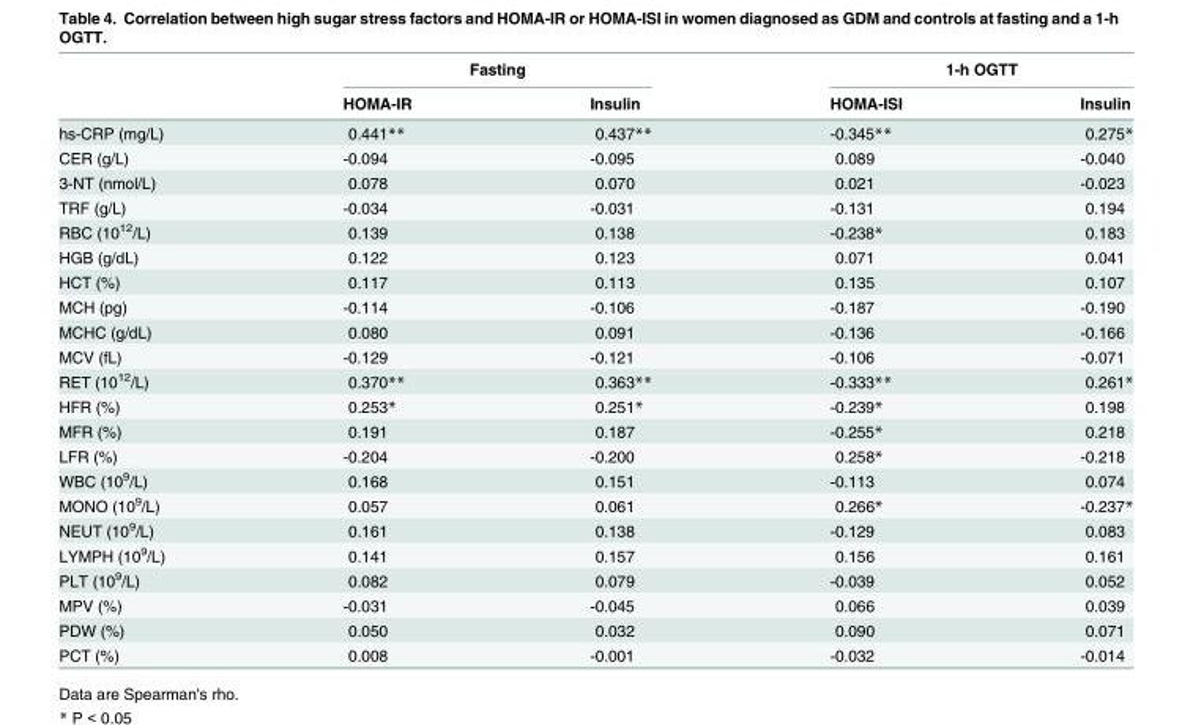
<table><thead><tr><td rowspan="2"></td><td colspan="2">Fasting</td><td colspan="2">1-h OGTT</td></tr><tr><td>HOMA-IR</td><td>Insulin</td><td>HOMA-ISI</td><td>Insulin</td></tr></thead><tbody><tr><td>hs-CRP (mg/L)</td><td>0.441**</td><td>0.437**</td><td>-0.345**</td><td>0.275*</td></tr><tr><td>CER (g/L)</td><td>-0.094</td><td>-0.095</td><td>0.089</td><td>-0.040</td></tr><tr><td>3-NT (nmol/L)</td><td>0.078</td><td>0.070</td><td>0.021</td><td>-0.023</td></tr><tr><td>TRF (g/L)</td><td>-0.034</td><td>-0.031</td><td>-0.131</td><td>0.194</td></tr><tr><td>RBC (10<sup>12</sup>/L)</td><td>0.139</td><td>0.138</td><td>-0.238*</td><td>0.183</td></tr><tr><td>HGB (g/dL)</td><td>0.122</td><td>0.123</td><td>0.071</td><td>0.041</td></tr><tr><td>HCT (%)</td><td>0.117</td><td>0.113</td><td>0.135</td><td>0.107</td></tr><tr><td>MCH (pg)</td><td>-0.114</td><td>-0.106</td><td>-0.187</td><td>-0.190</td></tr><tr><td>MCHC (g/dL)</td><td>0.080</td><td>0.091</td><td>-0.136</td><td>-0.166</td></tr><tr><td>MCV (fL)</td><td>-0.129</td><td>-0.121</td><td>-0.106</td><td>-0.071</td></tr><tr><td>RET (10<sup>12</sup>/L)</td><td>0.370**</td><td>0.363**</td><td>-0.333**</td><td>0.261*</td></tr><tr><td>HFR (%)</td><td>0.253*</td><td>0.251*</td><td>-0.239*</td><td>0.198</td></tr><tr><td>MFR (%)</td><td>0.191</td><td>0.187</td><td>-0.255*</td><td>0.218</td></tr><tr><td>LFR (%)</td><td>-0.204</td><td>-0.200</td><td>0.258*</td><td>-0.218</td></tr><tr><td>WBC (10<sup>9</sup>/L)</td><td>0.168</td><td>0.151</td><td>-0.113</td><td>0.074</td></tr><tr><td>MONO (10<sup>9</sup>/L)</td><td>0.057</td><td>0.061</td><td>0.266*</td><td>-0.237*</td></tr><tr><td>NEUT (10<sup>9</sup>/L)</td><td>0.161</td><td>0.138</td><td>-0.129</td><td>0.083</td></tr><tr><td>LYMPH (10<sup>9</sup>/L)</td><td>0.141</td><td>0.157</td><td>0.156</td><td>0.161</td></tr><tr><td>PLT (10<sup>9</sup>/L)</td><td>0.082</td><td>0.079</td><td>-0.039</td><td>0.052</td></tr><tr><td>MPV (%)</td><td>-0.031</td><td>-0.045</td><td>0.066</td><td>0.039</td></tr><tr><td>PDW (%)</td><td>0.050</td><td>0.032</td><td>0.090</td><td>0.071</td></tr><tr><td>PCT (%)</td><td>0.008</td><td>-0.001</td><td>-0.032</td><td>-0.014</td></tr></tbody></table>